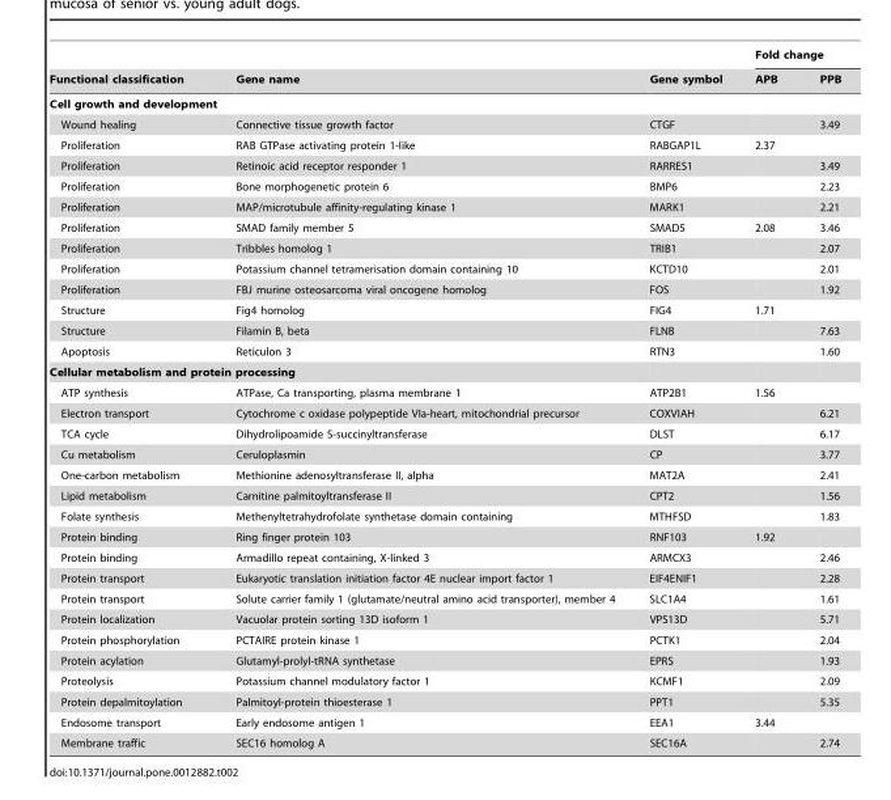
<table><thead><tr><td rowspan="2">Functional classification</td><td rowspan="2">Gene name</td><td rowspan="2">Gene symbol</td><td colspan="2">Fold change</td></tr><tr><td>APB</td><td>PPB</td></tr></thead><tbody><tr><td colspan="5">Cell growth and development</td></tr><tr><td>Wound healing</td><td>Connective tissue growth factor</td><td>CTGF</td><td></td><td>3.49</td></tr><tr><td>Proliferation</td><td>RAB GTPase activating protein 1-like</td><td>RABGAP1L</td><td>2.37</td><td></td></tr><tr><td>Proliferation</td><td>Retinoic acid receptor responder 1</td><td>RARRES1</td><td></td><td>3.49</td></tr><tr><td>Proliferation</td><td>Bone morphogenetic protein 6</td><td>BMP6</td><td></td><td>2.23</td></tr><tr><td>Proliferation</td><td>MAP/microtubule affinity-regulating kinase 1</td><td>MARK1</td><td></td><td>2.21</td></tr><tr><td>Proliferation</td><td>SMAD family member 5</td><td>SMAD5</td><td>2.08</td><td>3.46</td></tr><tr><td>Proliferation</td><td>Tribbles homolog 1</td><td>TRIB1</td><td></td><td>2.07</td></tr><tr><td>Proliferation</td><td>Potassium channel tetramerisation domain containing 10</td><td>KCTD10</td><td></td><td>2.01</td></tr><tr><td>Proliferation</td><td>FBJ murine osteosarcoma viral oncogene homolog</td><td>FOS</td><td></td><td>1.92</td></tr><tr><td>Structure</td><td>Fig4 homolog</td><td>FIG4</td><td>1.71</td><td></td></tr><tr><td>Structure</td><td>Filamin B, beta</td><td>FLNB</td><td></td><td>7.63</td></tr><tr><td>Apoptosis</td><td>Reticulon 3</td><td>RTN3</td><td></td><td>1.60</td></tr><tr><td colspan="5">Cellular metabolism and protein processing</td></tr><tr><td>ATP synthesis</td><td>ATPase, Ca transporting, plasma membrane 1</td><td>ATP2B1</td><td>1.56</td><td></td></tr><tr><td>Electron transport</td><td>Cytochrome c oxidase polypeptide VIa-heart, mitochondrial precursor</td><td>COXVIAH</td><td></td><td>6.21</td></tr><tr><td>TCA cycle</td><td>Dihydrolipoamide S-succinyltransferase</td><td>DLST</td><td></td><td>6.17</td></tr><tr><td>Cu metabolism</td><td>Ceruloplasmin</td><td>CP</td><td></td><td>3.77</td></tr><tr><td>One-carbon metabolism</td><td>Methionine adenosyltransferase II, alpha</td><td>MAT2A</td><td></td><td>2.41</td></tr><tr><td>Lipid metabolism</td><td>Carnitine palmitoyltransferase II</td><td>CPT2</td><td></td><td>1.56</td></tr><tr><td>Folate synthesis</td><td>Methenyltetrahydrofolate synthetase domain containing</td><td>MTHFSD</td><td></td><td>1.83</td></tr><tr><td>Protein binding</td><td>Ring finger protein 103</td><td>RNF103</td><td>1.92</td><td></td></tr><tr><td>Protein binding</td><td>Armadillo repeat containing, X-linked 3</td><td>ARMCX3</td><td></td><td>2.46</td></tr><tr><td>Protein transport</td><td>Eukaryotic translation initiation factor 4E nuclear import factor 1</td><td>EIF4ENIF1</td><td></td><td>2.28</td></tr><tr><td>Protein transport</td><td>Solute carrier family 1 (glutamate/neutral amino acid transporter), member 4</td><td>SLC1A4</td><td></td><td>1.61</td></tr><tr><td>Protein localization</td><td>Vacuolar protein sorting 13D isoform 1</td><td>VPS13D</td><td></td><td>5.71</td></tr><tr><td>Protein phosphorylation</td><td>PCTAIRE protein kinase 1</td><td>PCTK1</td><td></td><td>2.04</td></tr><tr><td>Protein acylation</td><td>Glutamyl-prolyl-tRNA synthetase</td><td>EPRS</td><td></td><td>1.93</td></tr><tr><td>Proteolysis</td><td>Potassium channel modulatory factor 1</td><td>KCMF1</td><td></td><td>2.09</td></tr><tr><td>Protein depalmitoylation</td><td>Palmitoyl-protein thioesterase 1</td><td>PPT1</td><td></td><td>5.35</td></tr><tr><td>Endosome transport</td><td>Early endosome antigen 1</td><td>EEA1</td><td>3.44</td><td></td></tr><tr><td>Membrane traffic</td><td>SEC16 homolog A</td><td>SEC16A</td><td></td><td>2.74</td></tr></tbody></table>